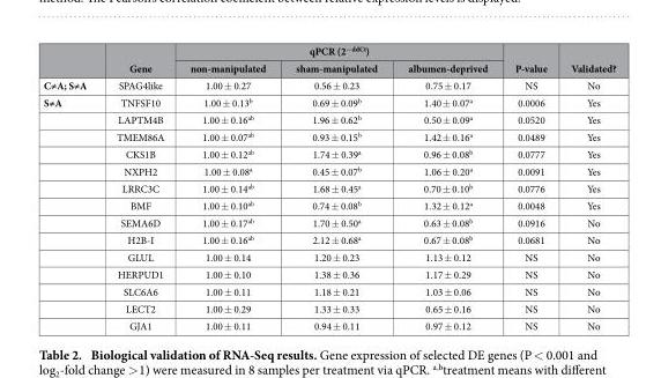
<table><thead><tr><td rowspan="2"></td><td rowspan="2">Gene</td><td colspan="3">qPCR (2<sup>−ddCt</sup>)</td><td rowspan="2">P-value</td><td rowspan="2">Validated?</td></tr><tr><td>non-manipulated</td><td>sham-manipulated</td><td>albumen-deprived</td></tr></thead><tbody><tr><td>C≠A; S≠A</td><td>SPAG4like</td><td>1.00 ± 0.27</td><td>0.56 ± 0.23</td><td>0.75 ± 0.17</td><td>NS</td><td>No</td></tr><tr><td rowspan="14">S≠A</td><td>TNFSF10</td><td>1.00 ± 0.13<sup>b</sup></td><td>0.69 ± 0.09<sup>b</sup></td><td>1.40 ± 0.07<sup>a</sup></td><td>0.0006</td><td>Yes</td></tr><tr><td>LAPTM4B</td><td>1.00 ± 0.16<sup>ab</sup></td><td>1.96 ± 0.62<sup>b</sup></td><td>0.50 ± 0.09<sup>a</sup></td><td>0.0520</td><td>Yes</td></tr><tr><td>TMEM86A</td><td>1.00 ± 0.07<sup>ab</sup></td><td>0.93 ± 0.15<sup>b</sup></td><td>1.42 ± 0.16<sup>a</sup></td><td>0.0489</td><td>Yes</td></tr><tr><td>CKS1B</td><td>1.00 ± 0.12<sup>ab</sup></td><td>1.74 ± 0.39<sup>a</sup></td><td>0.96 ± 0.08<sup>b</sup></td><td>0.0777</td><td>Yes</td></tr><tr><td>NXPH2</td><td>1.00 ± 0.08<sup>a</sup></td><td>0.45 ± 0.07<sup>b</sup></td><td>1.06 ± 0.20<sup>a</sup></td><td>0.0091</td><td>Yes</td></tr><tr><td>LRRC3C</td><td>1.00 ± 0.14<sup>ab</sup></td><td>1.68 ± 0.45<sup>a</sup></td><td>0.70 ± 0.10<sup>b</sup></td><td>0.0776</td><td>Yes</td></tr><tr><td>BMF</td><td>1.00 ± 0.10<sup>ab</sup></td><td>0.74 ± 0.08<sup>b</sup></td><td>1.32 ± 0.12<sup>a</sup></td><td>0.0048</td><td>Yes</td></tr><tr><td>SEMA6D</td><td>1.00 ± 0.17<sup>ab</sup></td><td>1.70 ± 0.50<sup>a</sup></td><td>0.63 ± 0.08<sup>b</sup></td><td>0.0916</td><td>No</td></tr><tr><td>H2B-I</td><td>1.00 ± 0.16<sup>ab</sup></td><td>2.12 ± 0.68<sup>a</sup></td><td>0.67 ± 0.08<sup>b</sup></td><td>0.0681</td><td>No</td></tr><tr><td>GLUL</td><td>1.00 ± 0.14</td><td>1.20 ± 0.23</td><td>1.13 ± 0.12</td><td>NS</td><td>No</td></tr><tr><td>HERPUD1</td><td>1.00 ± 0.10</td><td>1.38 ± 0.36</td><td>1.17 ± 0.29</td><td>NS</td><td>No</td></tr><tr><td>SLC6A6</td><td>1.00 ± 0.11</td><td>1.18 ± 0.21</td><td>1.03 ± 0.06</td><td>NS</td><td>No</td></tr><tr><td>LECT2</td><td>1.00 ± 0.29</td><td>1.33 ± 0.33</td><td>0.65 ± 0.16</td><td>NS</td><td>No</td></tr><tr><td>GJA1</td><td>1.00 ± 0.11</td><td>0.94 ± 0.11</td><td>0.97 ± 0.12</td><td>NS</td><td>No</td></tr></tbody></table>